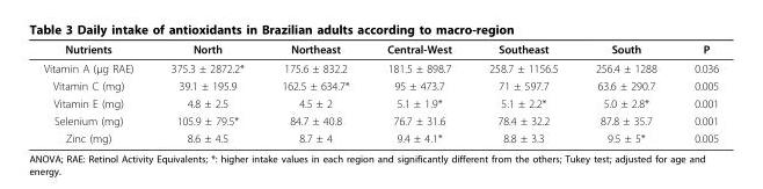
<table><thead><tr><td>Nutrients</td><td>North</td><td>Northeast</td><td>Central-West</td><td>Southeast</td><td>South</td><td>P</td></tr></thead><tbody><tr><td>Vitamin A (μg RAE)</td><td>375.3 ± 2872.2*</td><td>175.6 ± 832.2</td><td>181.5 ± 898.7</td><td>258.7 ± 1156.5</td><td>256.4 ± 1288</td><td>0.036</td></tr><tr><td>Vitamin C (mg)</td><td>39.1 ± 195.9</td><td>162.5 ± 634.7*</td><td>95 ± 473.7</td><td>71 ± 597.7</td><td>63.6 ± 290.7</td><td>0.005</td></tr><tr><td>Vitamin E (mg)</td><td>4.8 ± 2.5</td><td>4.5 ± 2</td><td>5.1 ± 1.9*</td><td>5.1 ± 2.2*</td><td>5.0 ± 2.8*</td><td>0.001</td></tr><tr><td>Selenium (mg)</td><td>105.9 ± 79.5*</td><td>84.7 ± 40.8</td><td>76.7 ± 31.6</td><td>78.4 ± 32.2</td><td>87.8 ± 35.7</td><td>0.001</td></tr><tr><td>Zinc (mg)</td><td>8.6 ± 4.5</td><td>8.7 ± 4</td><td>9.4 ± 4.1*</td><td>8.8 ± 3.3</td><td>9.5 ± 5*</td><td>0.005</td></tr></tbody></table>